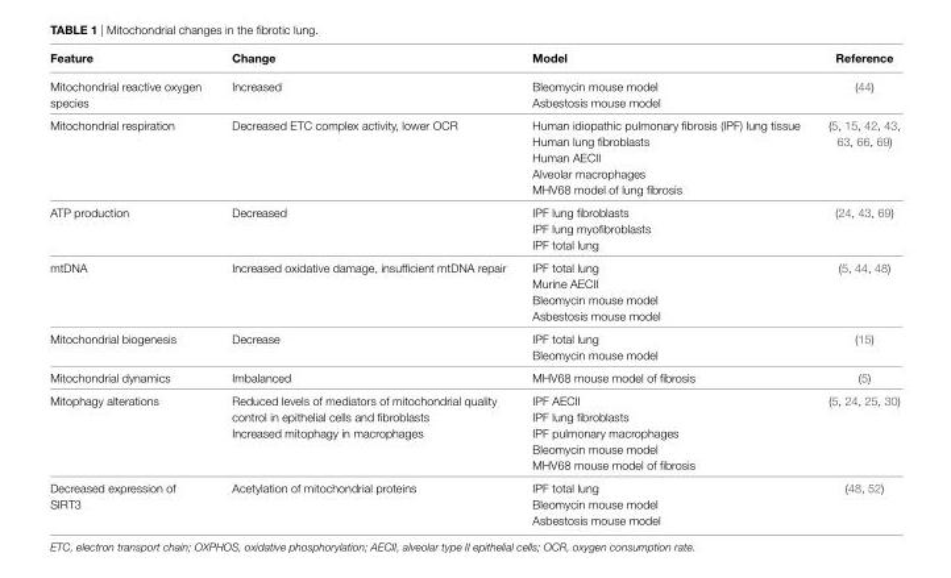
<table><thead><tr><td>Feature</td><td>Change</td><td>Model</td><td>Reference</td></tr></thead><tbody><tr><td rowspan="2">Mitochondrial reactive oxygen species</td><td rowspan="2">Increased</td><td>Bleomycin mouse model</td><td rowspan="2">(44)</td></tr><tr><td>Asbestosis mouse model</td></tr><tr><td rowspan="5">Mitochondrial respiration</td><td rowspan="5">Decreased ETC complex activity, lower OCR</td><td>Human idiopathic pulmonary fibrosis (IPF) lung tissue</td><td rowspan="5">(5, 15, 42, 43, 63, 66, 69)</td></tr><tr><td>Human lung fibroblasts</td></tr><tr><td>Human AECII</td></tr><tr><td>Alveolar macrophages</td></tr><tr><td>MHV68 model of lung fibrosis</td></tr><tr><td rowspan="3">ATP production</td><td rowspan="3">Decreased</td><td>IPF lung fibroblasts</td><td rowspan="3">(24, 43, 69)</td></tr><tr><td>IPF lung myofibroblasts</td></tr><tr><td>IPF total lung</td></tr><tr><td rowspan="4">mtDNA</td><td rowspan="4">Increased oxidative damage, insufficient mtDNA repair</td><td>IPF total lung</td><td rowspan="4">(5, 44, 48)</td></tr><tr><td>Murine AECII</td></tr><tr><td>Bleomycin mouse model</td></tr><tr><td>Asbestosis mouse model</td></tr><tr><td rowspan="2">Mitochondrial biogenesis</td><td rowspan="2">Decrease</td><td>IPF total lung</td><td rowspan="2">(15)</td></tr><tr><td>Bleomycin mouse model</td></tr><tr><td>Mitochondrial dynamics</td><td>Imbalanced</td><td>MHV68 mouse model of fibrosis</td><td>(5)</td></tr><tr><td rowspan="3">Mitophagy alterations</td><td>Reduced levels of mediators of mitochondrial quality control in epithelial cells and fibroblasts</td><td rowspan="2">IPF AECII IPF lung fibroblasts IPF pulmonary macrophages Bleomycin mouse model</td><td rowspan="3">(5, 24, 25, 30)</td></tr><tr><td rowspan="2">Increased mitophagy in macrophages</td></tr><tr><td>MHV68 mouse model of fibrosis</td></tr><tr><td rowspan="3">Decreased expression of SIRT3</td><td rowspan="3">Acetylation of mitochondrial proteins</td><td>IPF total lung</td><td rowspan="3">(48, 52)</td></tr><tr><td>Bleomycin mouse model</td></tr><tr><td>Asbestosis mouse model</td></tr></tbody></table>